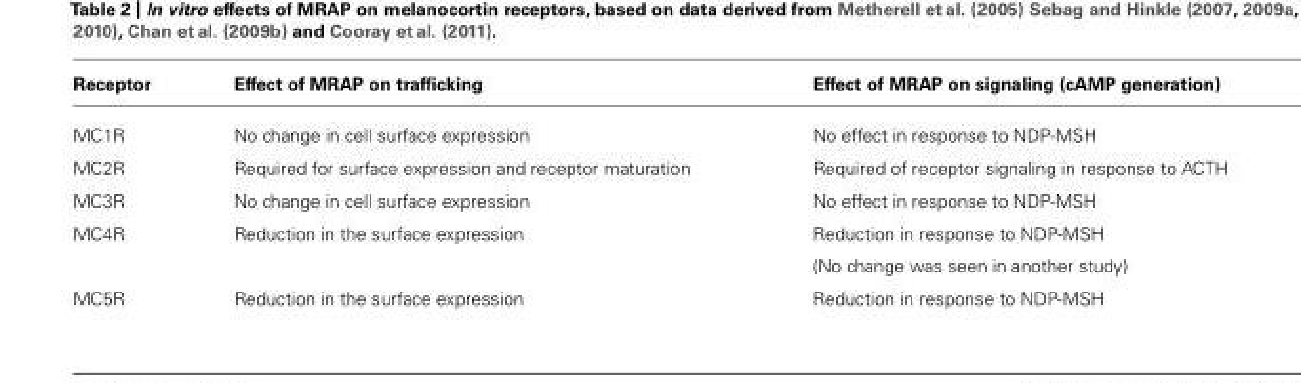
<table><thead><tr><td>Receptor</td><td>Effect of MRAP on trafficking</td><td>Effect of MRAP on signaling (cAMP generation)</td></tr></thead><tbody><tr><td>MC1R</td><td>No change in cell surface expression</td><td>No effect in response to NDP-MSH</td></tr><tr><td>MC2R</td><td>Required for surface expression and receptor maturation</td><td>Required of receptor signaling in response to ACTH</td></tr><tr><td>MC3R</td><td>No change in cell surface expression</td><td>No effect in response to NDP-MSH</td></tr><tr><td>MC4R</td><td>Reduction in the surface expression</td><td>Reduction in response to NDP-MSH (No change was seen in another study)</td></tr><tr><td>MC5R</td><td>Reduction in the surface expression</td><td>Reduction in response to NDP-MSH</td></tr></tbody></table>